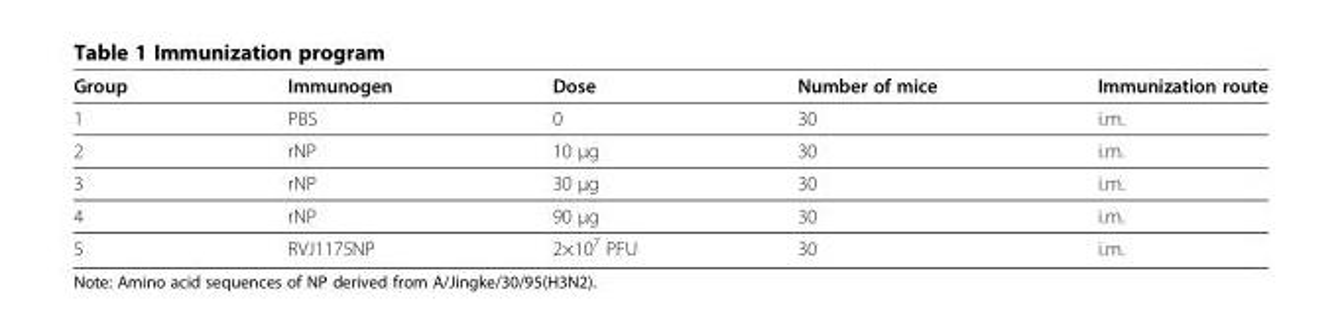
<table><thead><tr><td>Group</td><td>Immunogen</td><td>Dose</td><td>Number of mice</td><td>Immunization route</td></tr></thead><tbody><tr><td>1</td><td>PBS</td><td>0</td><td>30</td><td>i.m.</td></tr><tr><td>2</td><td>rNP</td><td>10 μg</td><td>30</td><td>i.m.</td></tr><tr><td>3</td><td>rNP</td><td>30 μg</td><td>30</td><td>i.m.</td></tr><tr><td>4</td><td>rNP</td><td>90 μg</td><td>30</td><td>i.m.</td></tr><tr><td>5</td><td>RVJ1175NP</td><td>2×10<sup>7</sup> PFU</td><td>30</td><td>i.m.</td></tr></tbody></table>